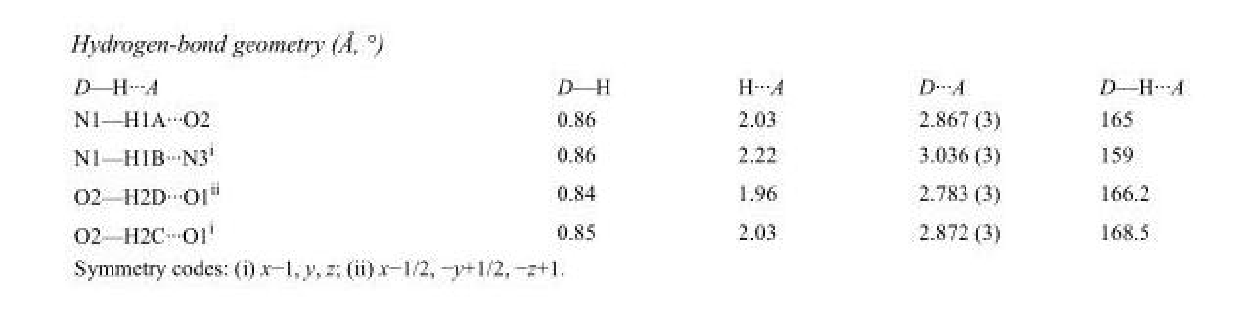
<table><tbody><tr><td>D—H···A</td><td>D—H</td><td>H···A</td><td>D···A</td><td>D—H···A</td></tr><tr><td>N1—H1A···O2</td><td>0.86</td><td>2.03</td><td>2.867 (3)</td><td>165</td></tr><tr><td>N1—H1B···N3<sup>i</sup></td><td>0.86</td><td>2.22</td><td>3.036 (3)</td><td>159</td></tr><tr><td>O2—H2D···O1<sup>ii</sup></td><td>0.84</td><td>1.96</td><td>2.783 (3)</td><td>166.2</td></tr><tr><td>O2—H2C···O1<sup>i</sup></td><td>0.85</td><td>2.03</td><td>2.872 (3)</td><td>168.5</td></tr></tbody></table>